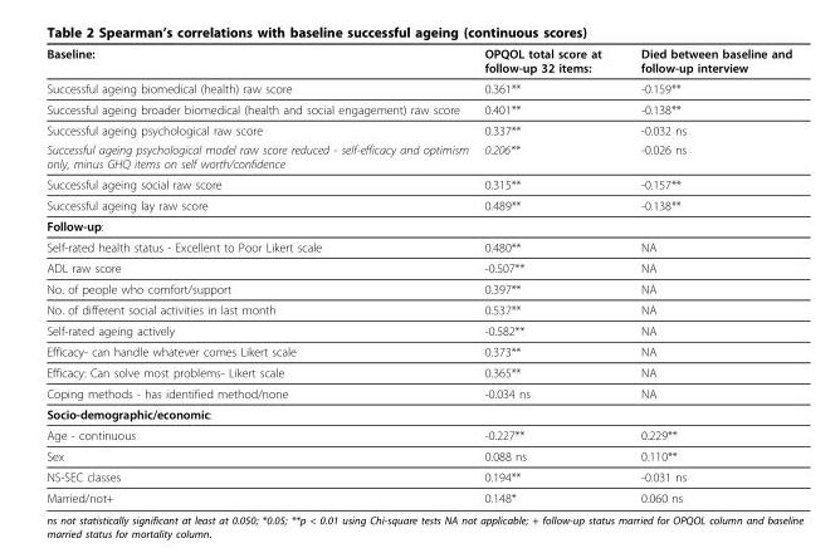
<table><thead><tr><td>Baseline:</td><td>OPQOL total score at follow-up 32 items:</td><td>Died between baseline and follow-up interview</td></tr></thead><tbody><tr><td>Successful ageing biomedical (health) raw score</td><td>0.361**</td><td>-0.159**</td></tr><tr><td>Successful ageing broader biomedical (health and social engagement) raw score</td><td>0.401**</td><td>-0.138**</td></tr><tr><td>Successful ageing psychological raw score</td><td>0.337**</td><td>-0.032 ns</td></tr><tr><td>Successful ageing psychological model raw score reduced - self-efficacy and optimism only, minus GHQ items on self worth/confidence</td><td>0.206**</td><td>-0.026 ns</td></tr><tr><td>Successful ageing social raw score</td><td>0.315**</td><td>-0.157**</td></tr><tr><td>Successful ageing lay raw score</td><td>0.489**</td><td>-0.138**</td></tr><tr><td colspan="3">Follow-up:</td></tr><tr><td>Self-rated health status - Excellent to Poor Likert scale</td><td>0.480**</td><td>NA</td></tr><tr><td>ADL raw score</td><td>-0.507**</td><td>NA</td></tr><tr><td>No. of people who comfort/support</td><td>0.397**</td><td>NA</td></tr><tr><td>No. of different social activities in last month</td><td>0.537**</td><td>NA</td></tr><tr><td>Self-rated ageing actively</td><td>-0.582**</td><td>NA</td></tr><tr><td>Efficacy- can handle whatever comes Likert scale</td><td>0.373**</td><td>NA</td></tr><tr><td>Efficacy: Can solve most problems- Likert scale</td><td>0.365**</td><td>NA</td></tr><tr><td>Coping methods - has identified method/none</td><td>-0.034 ns</td><td>NA</td></tr><tr><td colspan="3">Socio-demographic/economic:</td></tr><tr><td>Age - continuous</td><td>-0.227**</td><td>0.229**</td></tr><tr><td>Sex</td><td>0.088 ns</td><td>0.110**</td></tr><tr><td>NS-SEC classes</td><td>0.194**</td><td>-0.031 ns</td></tr><tr><td>Married/not+</td><td>0.148*</td><td>0.060 ns</td></tr></tbody></table>